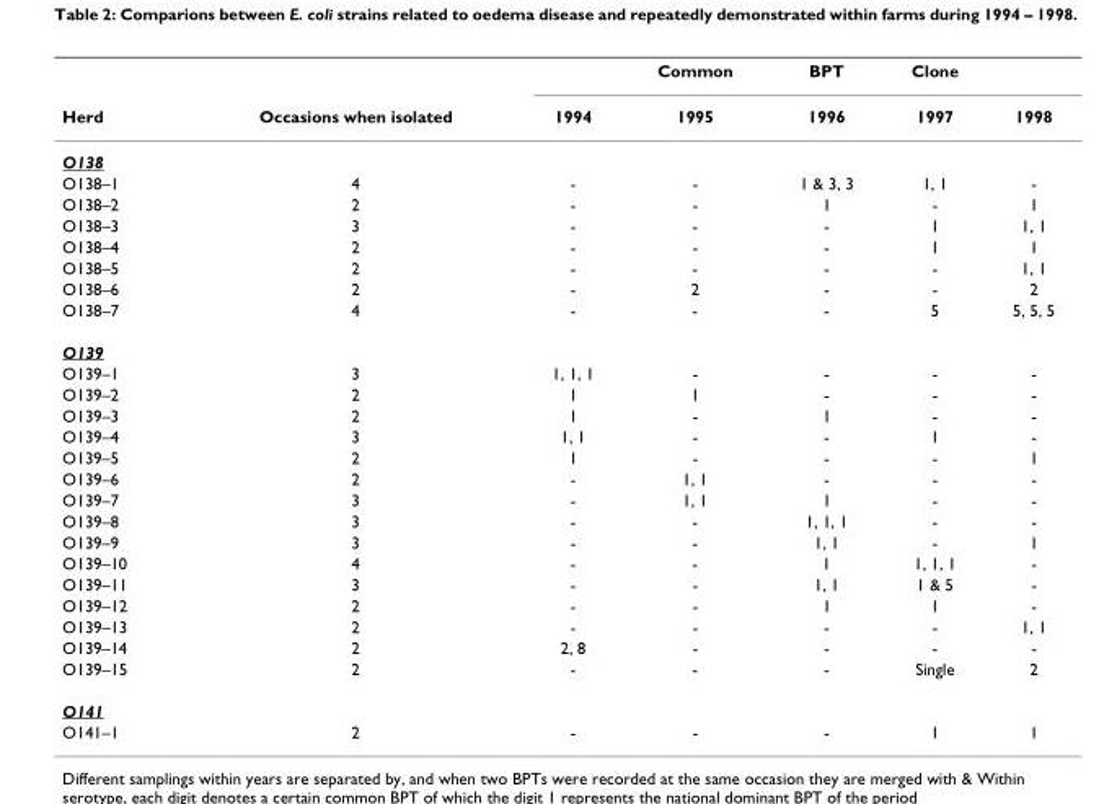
<table><thead><tr><td rowspan="2">Herd</td><td rowspan="2">Occasions when isolated</td><td rowspan="2">1994</td><td rowspan="2">Common 1995</td><td rowspan="2">BPT 1996</td><td rowspan="2">Clone 1997</td><td rowspan="2">1998</td></tr><tr></tr></thead><tbody><tr><td colspan="7">O138</td></tr><tr><td>O138–1</td><td>4</td><td>-</td><td>-</td><td>1 &amp; 3, 3</td><td>1, 1</td><td>-</td></tr><tr><td>O138–2</td><td>2</td><td>-</td><td>-</td><td>1</td><td>-</td><td>1</td></tr><tr><td>O138–3</td><td>3</td><td>-</td><td>-</td><td>-</td><td>1</td><td>1, 1</td></tr><tr><td>O138–4</td><td>2</td><td>-</td><td>-</td><td>-</td><td>1</td><td>1</td></tr><tr><td>O138–5</td><td>2</td><td>-</td><td>-</td><td>-</td><td>-</td><td>1, 1</td></tr><tr><td>O138–6</td><td>2</td><td>-</td><td>2</td><td>-</td><td>-</td><td>2</td></tr><tr><td>O138–7</td><td>4</td><td>-</td><td>-</td><td>-</td><td>5</td><td>5, 5, 5</td></tr><tr><td colspan="7">O139</td></tr><tr><td>O139–1</td><td>3</td><td>1, 1, 1</td><td>-</td><td>-</td><td>-</td><td>-</td></tr><tr><td>O139–2</td><td>2</td><td>1</td><td>1</td><td>-</td><td>-</td><td>-</td></tr><tr><td>O139–3</td><td>2</td><td>1</td><td>-</td><td>1</td><td>-</td><td>-</td></tr><tr><td>O139–4</td><td>3</td><td>1, 1</td><td>-</td><td>-</td><td>1</td><td>-</td></tr><tr><td>O139–5</td><td>2</td><td>1</td><td>-</td><td>-</td><td>-</td><td>1</td></tr><tr><td>O139–6</td><td>2</td><td>-</td><td>1, 1</td><td>-</td><td>-</td><td>-</td></tr><tr><td>O139–7</td><td>3</td><td>-</td><td>1, 1</td><td>1</td><td>-</td><td>-</td></tr><tr><td>O139–8</td><td>3</td><td>-</td><td>-</td><td>1, 1, 1</td><td>-</td><td>-</td></tr><tr><td>O139–9</td><td>3</td><td>-</td><td>-</td><td>1, 1</td><td>-</td><td>1</td></tr><tr><td>O139–10</td><td>4</td><td>-</td><td>-</td><td>1</td><td>1, 1, 1</td><td>-</td></tr><tr><td>O139–11</td><td>3</td><td>-</td><td>-</td><td>1, 1</td><td>1 &amp; 5</td><td>-</td></tr><tr><td>O139–12</td><td>2</td><td>-</td><td>-</td><td>1</td><td>1</td><td>-</td></tr><tr><td>O139–13</td><td>2</td><td>-</td><td>-</td><td>-</td><td>-</td><td>1, 1</td></tr><tr><td>O139–14</td><td>2</td><td>2, 8</td><td>-</td><td>-</td><td>-</td><td>-</td></tr><tr><td>O139–15</td><td>2</td><td>-</td><td>-</td><td>-</td><td>Single</td><td>2</td></tr><tr><td colspan="7">O141</td></tr><tr><td>O141–1</td><td>2</td><td>-</td><td>-</td><td>-</td><td>1</td><td>1</td></tr></tbody></table>